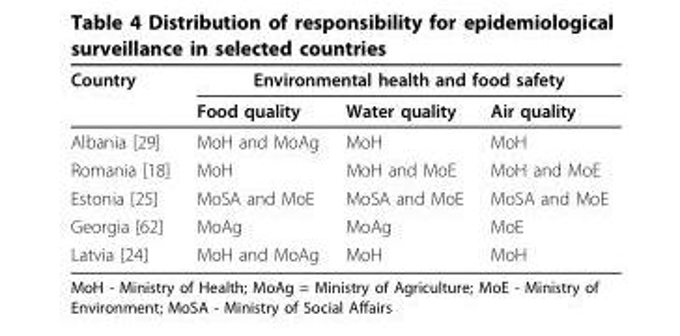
<table><thead><tr><td rowspan="2">Country</td><td colspan="3">Environmental health and food safety</td></tr><tr><td>Food quality</td><td>Water quality</td><td>Air quality</td></tr></thead><tbody><tr><td>Albania [29]</td><td>MoH and MoAg</td><td>MoH</td><td>MoH</td></tr><tr><td>Romania [18]</td><td>MoH</td><td>MoH and MoE</td><td>MoH and MoE</td></tr><tr><td>Estonia [25]</td><td>MoSA and MoE</td><td>MoSA and MoE</td><td>MoSA and MoE</td></tr><tr><td>Georgia [62]</td><td>MoAg</td><td>MoAg</td><td>MoE</td></tr><tr><td>Latvia [24]</td><td>MoH and MoAg</td><td>MoH</td><td>MoH</td></tr></tbody></table>